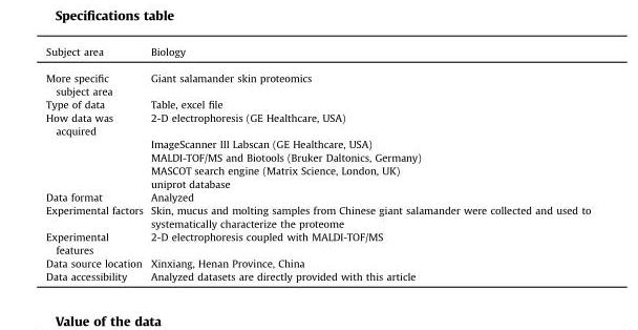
<table><thead><tr><td>Subject area</td><td>Biology</td></tr></thead><tbody><tr><td>More specific subject area</td><td>Giant salamander skin proteomics</td></tr><tr><td>Type of data</td><td>Table, excel file</td></tr><tr><td rowspan="5">How data was acquired</td><td>2-D electrophoresis (GE Healthcare, USA)</td></tr><tr><td>ImageScanner III Labscan (GE Healthcare, USA)</td></tr><tr><td>MALDI-TOF/MS and Biotools (Bruker Daltonics, Germany)</td></tr><tr><td>MASCOT search engine (Matrix Science, London, UK)</td></tr><tr><td>uniprot database</td></tr><tr><td>Data format</td><td>Analyzed</td></tr><tr><td>Experimental factors</td><td>Skin, mucus and molting samples from Chinese giant salamander were collected and used to systematically characterize the proteome</td></tr><tr><td>Experimental features</td><td>2-D electrophoresis coupled with MALDI-TOF/MS</td></tr><tr><td>Data source location</td><td>Xinxiang, Henan Province, China</td></tr><tr><td>Data accessibility</td><td>Analyzed datasets are directly provided with this article</td></tr></tbody></table>